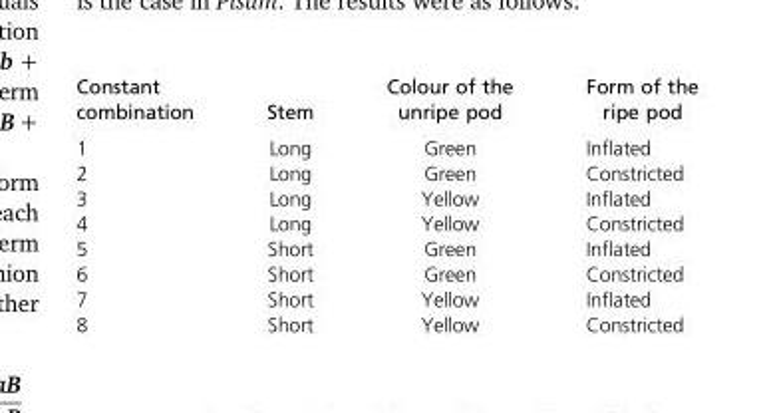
<table><thead><tr><td>Constant combination</td><td>Stem</td><td>Colour of the unripe pod</td><td>Form of the ripe pod</td></tr></thead><tbody><tr><td>1</td><td>Long</td><td>Green</td><td>Inflated</td></tr><tr><td>2</td><td>Long</td><td>Green</td><td>Constricted</td></tr><tr><td>3</td><td>Long</td><td>Yellow</td><td>Inflated</td></tr><tr><td>4</td><td>Long</td><td>Yellow</td><td>Constricted</td></tr><tr><td>5</td><td>Short</td><td>Green</td><td>Inflated</td></tr><tr><td>6</td><td>Short</td><td>Green</td><td>Constricted</td></tr><tr><td>7</td><td>Short</td><td>Yellow</td><td>Inflated</td></tr><tr><td>8</td><td>Short</td><td>Yellow</td><td>Constricted</td></tr></tbody></table>